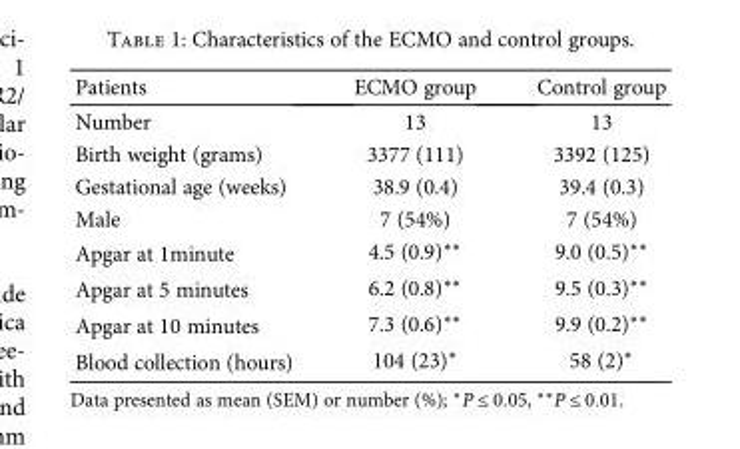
<table><thead><tr><td>Patients</td><td>ECMO group</td><td>Control group</td></tr></thead><tbody><tr><td>Number</td><td>13</td><td>13</td></tr><tr><td>Birth weight (grams)</td><td>3377 (111)</td><td>3392 (125)</td></tr><tr><td>Gestational age (weeks)</td><td>38.9 (0.4)</td><td>39.4 (0.3)</td></tr><tr><td>Male</td><td>7 (54%)</td><td>7 (54%)</td></tr><tr><td>Apgar at 1minute</td><td>4.5 (0.9)∗∗</td><td>9.0 (0.5)∗∗</td></tr><tr><td>Apgar at 5 minutes</td><td>6.2 (0.8)∗∗</td><td>9.5 (0.3)∗∗</td></tr><tr><td>Apgar at 10 minutes</td><td>7.3 (0.6)∗∗</td><td>9.9 (0.2)∗∗</td></tr><tr><td>Blood collection (hours)</td><td>104 (23)∗</td><td>58 (2)∗</td></tr></tbody></table>